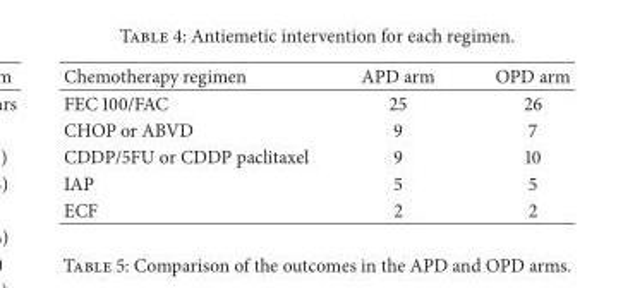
<table><thead><tr><td>Chemotherapy regimen</td><td>APD arm</td><td>OPD arm</td></tr></thead><tbody><tr><td>FEC 100/FAC</td><td>25</td><td>26</td></tr><tr><td>CHOP or ABVD</td><td>9</td><td>7</td></tr><tr><td>CDDP/5FU or CDDP paclitaxel</td><td>9</td><td>10</td></tr><tr><td>IAP</td><td>5</td><td>5</td></tr><tr><td>ECF</td><td>2</td><td>2</td></tr></tbody></table>